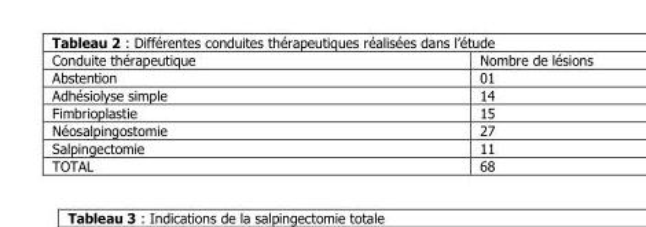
<table><thead><tr><td>Conduite thérapeutique</td><td>Nombre de lésions</td></tr></thead><tbody><tr><td>Abstention</td><td>01</td></tr><tr><td>Adhésiolyse simple</td><td>14</td></tr><tr><td>Fimbrioplastie</td><td>15</td></tr><tr><td>Néosalpingostomie</td><td>27</td></tr><tr><td>Salpingectomie</td><td>11</td></tr><tr><td>TOTAL</td><td>68</td></tr></tbody></table>